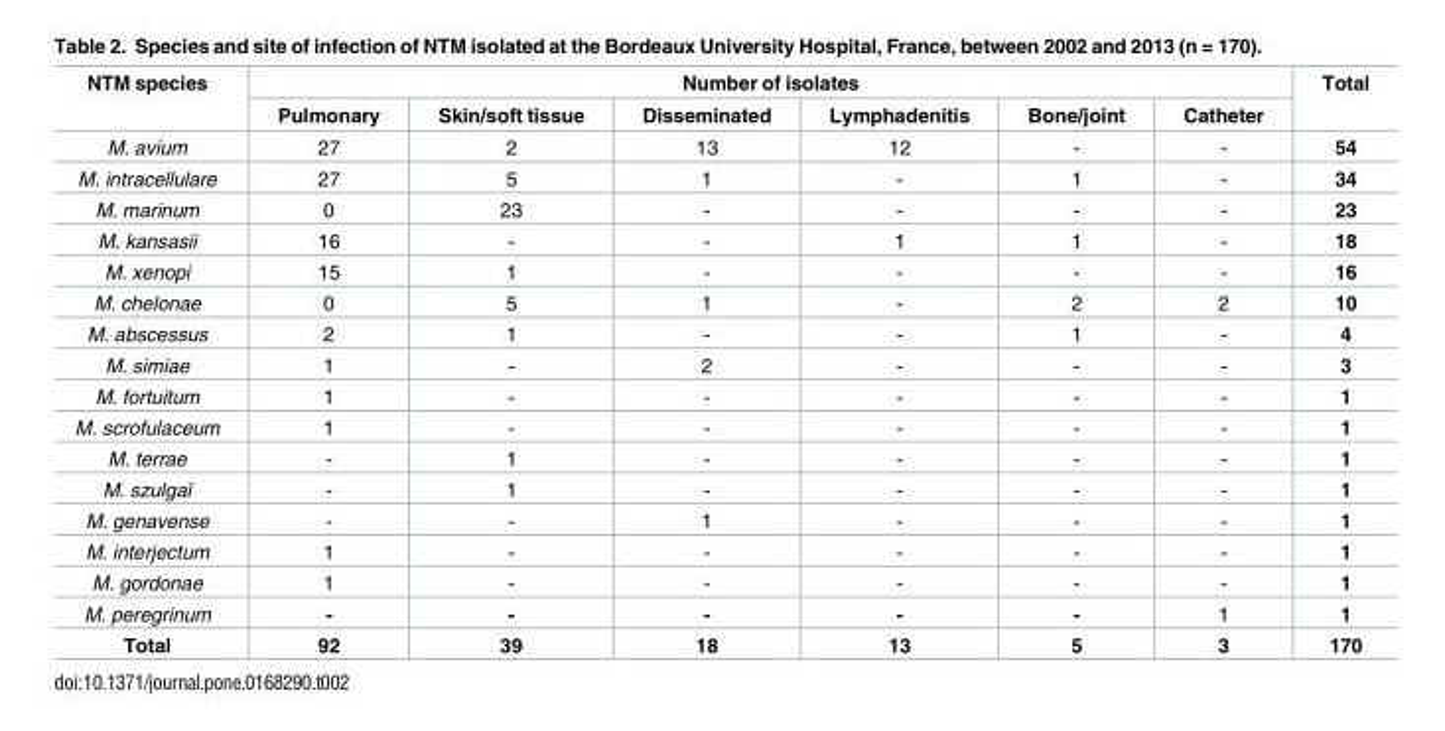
<table><thead><tr><td rowspan="2">NTM species</td><td colspan="6">Number of isolates</td><td rowspan="2">Total</td></tr><tr><td>Pulmonary</td><td>Skin/soft tissue</td><td>Disseminated</td><td>Lymphadenitis</td><td>Bone/joint</td><td>Catheter</td></tr></thead><tbody><tr><td>M. avium</td><td>27</td><td>2</td><td>13</td><td>12</td><td>-</td><td>-</td><td>54</td></tr><tr><td>M. intracellulare</td><td>27</td><td>5</td><td>1</td><td>-</td><td>1</td><td>-</td><td>34</td></tr><tr><td>M. marinum</td><td>0</td><td>23</td><td>-</td><td>-</td><td>-</td><td>-</td><td>23</td></tr><tr><td>M. kansasii</td><td>16</td><td>-</td><td>-</td><td>1</td><td>1</td><td>-</td><td>18</td></tr><tr><td>M. xenopi</td><td>15</td><td>1</td><td>-</td><td>-</td><td>-</td><td>-</td><td>16</td></tr><tr><td>M. chelonae</td><td>0</td><td>5</td><td>1</td><td>-</td><td>2</td><td>2</td><td>10</td></tr><tr><td>M. abscessus</td><td>2</td><td>1</td><td>-</td><td>-</td><td>1</td><td>-</td><td>4</td></tr><tr><td>M. simiae</td><td>1</td><td>-</td><td>2</td><td>-</td><td>-</td><td>-</td><td>3</td></tr><tr><td>M. fortuitum</td><td>1</td><td>-</td><td>-</td><td>-</td><td>-</td><td>-</td><td>1</td></tr><tr><td>M. scrofulaceum</td><td>1</td><td>-</td><td>-</td><td>-</td><td>-</td><td>-</td><td>1</td></tr><tr><td>M. terrae</td><td>-</td><td>1</td><td>-</td><td>-</td><td>-</td><td>-</td><td>1</td></tr><tr><td>M. szulgaï</td><td>-</td><td>1</td><td>-</td><td>-</td><td>-</td><td>-</td><td>1</td></tr><tr><td>M. genavense</td><td>-</td><td>-</td><td>1</td><td>-</td><td>-</td><td>-</td><td>1</td></tr><tr><td>M. interjectum</td><td>1</td><td>-</td><td>-</td><td>-</td><td>-</td><td>-</td><td>1</td></tr><tr><td>M. gordonae</td><td>1</td><td>-</td><td>-</td><td>-</td><td>-</td><td>-</td><td>1</td></tr><tr><td>M. peregrinum</td><td>-</td><td>-</td><td>-</td><td>-</td><td>-</td><td>1</td><td>1</td></tr><tr><td>Total</td><td>92</td><td>39</td><td>18</td><td>13</td><td>5</td><td>3</td><td>170</td></tr></tbody></table>